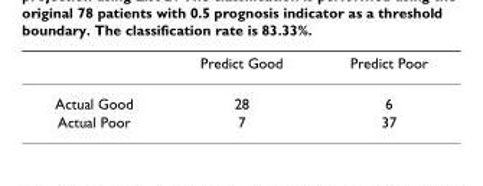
<table><thead><tr><td></td><td>Predict Good</td><td>Predict Poor</td></tr></thead><tbody><tr><td>Actual Good</td><td>28</td><td>6</td></tr><tr><td>Actual Poor</td><td>7</td><td>37</td></tr></tbody></table>